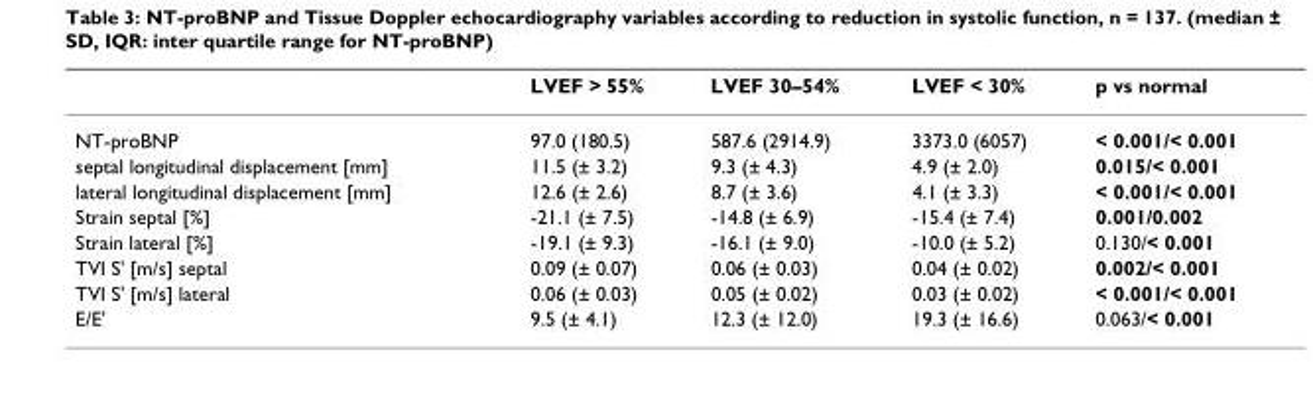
<table><thead><tr><td></td><td>LVEF &gt; 55%</td><td>LVEF 30–54%</td><td>LVEF &lt; 30%</td><td>p vs normal</td></tr></thead><tbody><tr><td>NT-proBNP</td><td>97.0 (180.5)</td><td>587.6 (2914.9)</td><td>3373.0 (6057)</td><td>&lt; 0.001/&lt; 0.001</td></tr><tr><td>septal longitudinal displacement [mm]</td><td>11.5 (± 3.2)</td><td>9.3 (± 4.3)</td><td>4.9 (± 2.0)</td><td>0.015/&lt; 0.001</td></tr><tr><td>lateral longitudinal displacement [mm]</td><td>12.6 (± 2.6)</td><td>8.7 (± 3.6)</td><td>4.1 (± 3.3)</td><td>&lt; 0.001/&lt; 0.001</td></tr><tr><td>Strain septal [%]</td><td>-21.1 (± 7.5)</td><td>-14.8 (± 6.9)</td><td>-15.4 (± 7.4)</td><td>0.001/0.002</td></tr><tr><td>Strain lateral [%]</td><td>-19.1 (± 9.3)</td><td>-16.1 (± 9.0)</td><td>-10.0 (± 5.2)</td><td>0.130/&lt; 0.001</td></tr><tr><td>TVI S&#x27; [m/s] septal</td><td>0.09 (± 0.07)</td><td>0.06 (± 0.03)</td><td>0.04 (± 0.02)</td><td>0.002/&lt; 0.001</td></tr><tr><td>TVI S&#x27; [m/s] lateral</td><td>0.06 (± 0.03)</td><td>0.05 (± 0.02)</td><td>0.03 (± 0.02)</td><td>&lt; 0.001/&lt; 0.001</td></tr><tr><td>E/E&#x27;</td><td>9.5 (± 4.1)</td><td>12.3 (± 12.0)</td><td>19.3 (± 16.6)</td><td>0.063/&lt; 0.001</td></tr></tbody></table>